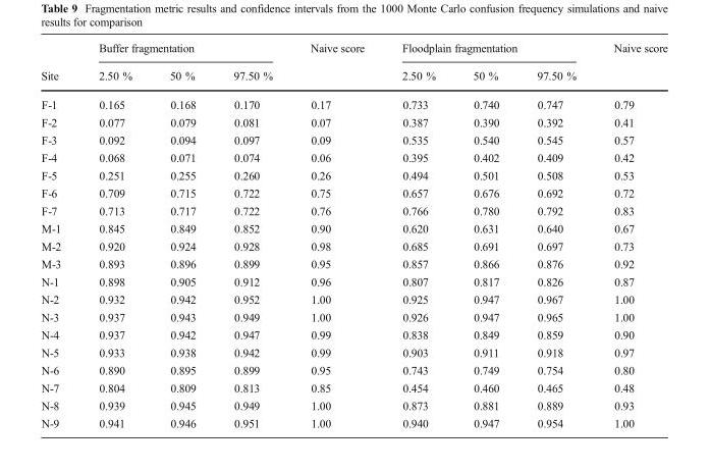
<table><thead><tr><td rowspan="2">Site</td><td colspan="3">Buffer fragmentation</td><td rowspan="2">Naive score</td><td colspan="3">Floodplain fragmentation</td><td rowspan="2">Naive score</td></tr><tr><td>2.50 %</td><td>50 %</td><td>97.50 %</td><td>2.50 %</td><td>50 %</td><td>97.50 %</td></tr></thead><tbody><tr><td>F-1</td><td>0.165</td><td>0.168</td><td>0.170</td><td>0.17</td><td>0.733</td><td>0.740</td><td>0.747</td><td>0.79</td></tr><tr><td>F-2</td><td>0.077</td><td>0.079</td><td>0.081</td><td>0.07</td><td>0.387</td><td>0.390</td><td>0.392</td><td>0.41</td></tr><tr><td>F-3</td><td>0.092</td><td>0.094</td><td>0.097</td><td>0.09</td><td>0.535</td><td>0.540</td><td>0.545</td><td>0.57</td></tr><tr><td>F-4</td><td>0.068</td><td>0.071</td><td>0.074</td><td>0.06</td><td>0.395</td><td>0.402</td><td>0.409</td><td>0.42</td></tr><tr><td>F-5</td><td>0.251</td><td>0.255</td><td>0.260</td><td>0.26</td><td>0.494</td><td>0.501</td><td>0.508</td><td>0.53</td></tr><tr><td>F-6</td><td>0.709</td><td>0.715</td><td>0.722</td><td>0.75</td><td>0.657</td><td>0.676</td><td>0.692</td><td>0.72</td></tr><tr><td>F-7</td><td>0.713</td><td>0.717</td><td>0.722</td><td>0.76</td><td>0.766</td><td>0.780</td><td>0.792</td><td>0.83</td></tr><tr><td>M-1</td><td>0.845</td><td>0.849</td><td>0.852</td><td>0.90</td><td>0.620</td><td>0.631</td><td>0.640</td><td>0.67</td></tr><tr><td>M-2</td><td>0.920</td><td>0.924</td><td>0.928</td><td>0.98</td><td>0.685</td><td>0.691</td><td>0.697</td><td>0.73</td></tr><tr><td>M-3</td><td>0.893</td><td>0.896</td><td>0.899</td><td>0.95</td><td>0.857</td><td>0.866</td><td>0.876</td><td>0.92</td></tr><tr><td>N-1</td><td>0.898</td><td>0.905</td><td>0.912</td><td>0.96</td><td>0.807</td><td>0.817</td><td>0.826</td><td>0.87</td></tr><tr><td>N-2</td><td>0.932</td><td>0.942</td><td>0.952</td><td>1.00</td><td>0.925</td><td>0.947</td><td>0.967</td><td>1.00</td></tr><tr><td>N-3</td><td>0.937</td><td>0.943</td><td>0.949</td><td>1.00</td><td>0.926</td><td>0.947</td><td>0.965</td><td>1.00</td></tr><tr><td>N-4</td><td>0.937</td><td>0.942</td><td>0.947</td><td>0.99</td><td>0.838</td><td>0.849</td><td>0.859</td><td>0.90</td></tr><tr><td>N-5</td><td>0.933</td><td>0.938</td><td>0.942</td><td>0.99</td><td>0.903</td><td>0.911</td><td>0.918</td><td>0.97</td></tr><tr><td>N-6</td><td>0.890</td><td>0.895</td><td>0.899</td><td>0.95</td><td>0.743</td><td>0.749</td><td>0.754</td><td>0.80</td></tr><tr><td>N-7</td><td>0.804</td><td>0.809</td><td>0.813</td><td>0.85</td><td>0.454</td><td>0.460</td><td>0.465</td><td>0.48</td></tr><tr><td>N-8</td><td>0.939</td><td>0.945</td><td>0.949</td><td>1.00</td><td>0.873</td><td>0.881</td><td>0.889</td><td>0.93</td></tr><tr><td>N-9</td><td>0.941</td><td>0.946</td><td>0.951</td><td>1.00</td><td>0.940</td><td>0.947</td><td>0.954</td><td>1.00</td></tr></tbody></table>